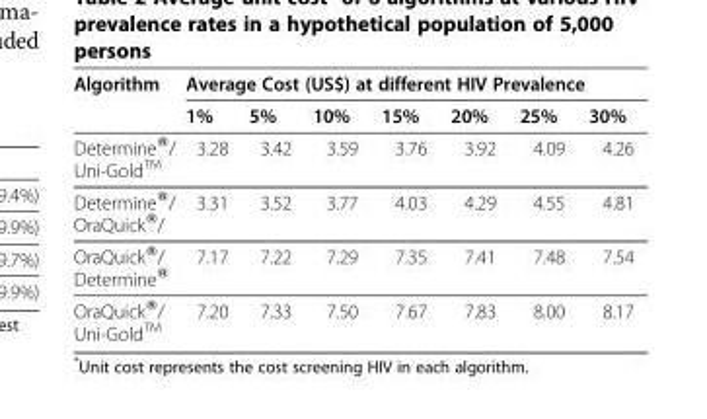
<table><thead><tr><td rowspan="2">Algorithm</td><td colspan="7">Average Cost (US$) at different HIV Prevalence</td></tr><tr><td>1%</td><td>5%</td><td>10%</td><td>15%</td><td>20%</td><td>25%</td><td>30%</td></tr></thead><tbody><tr><td>Determine®/ Uni-Gold<sup>TM</sup></td><td>3.28</td><td>3.42</td><td>3.59</td><td>3.76</td><td>3.92</td><td>4.09</td><td>4.26</td></tr><tr><td>Determine®/ OraQuick®/</td><td>3.31</td><td>3.52</td><td>3.77</td><td>4.03</td><td>4.29</td><td>4.55</td><td>4.81</td></tr><tr><td>OraQuick®/ Determine®</td><td>7.17</td><td>7.22</td><td>7.29</td><td>7.35</td><td>7.41</td><td>7.48</td><td>7.54</td></tr><tr><td>OraQuick®/ Uni-Gold<sup>TM</sup></td><td>7.20</td><td>7.33</td><td>7.50</td><td>7.67</td><td>7.83</td><td>8.00</td><td>8.17</td></tr></tbody></table>